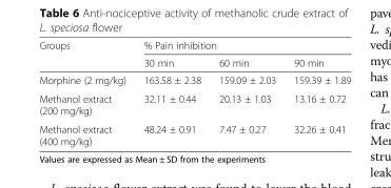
<table><thead><tr><td rowspan="2">Groups</td><td colspan="3">% Pain inhibition</td></tr><tr><td>30 min</td><td>60 min</td><td>90 min</td></tr></thead><tbody><tr><td>Morphine (2 mg/kg)</td><td>163.58 ± 2.38</td><td>159.09 ± 2.03</td><td>159.39 ± 1.89</td></tr><tr><td>Methanol extract (200 mg/kg)</td><td>32.11 ± 0.44</td><td>20.13 ± 1.03</td><td>13.16 ± 0.72</td></tr><tr><td>Methanol extract (400 mg/kg)</td><td>48.24 ± 0.91</td><td>7.47 ± 0.27</td><td>32.26 ± 0.41</td></tr></tbody></table>